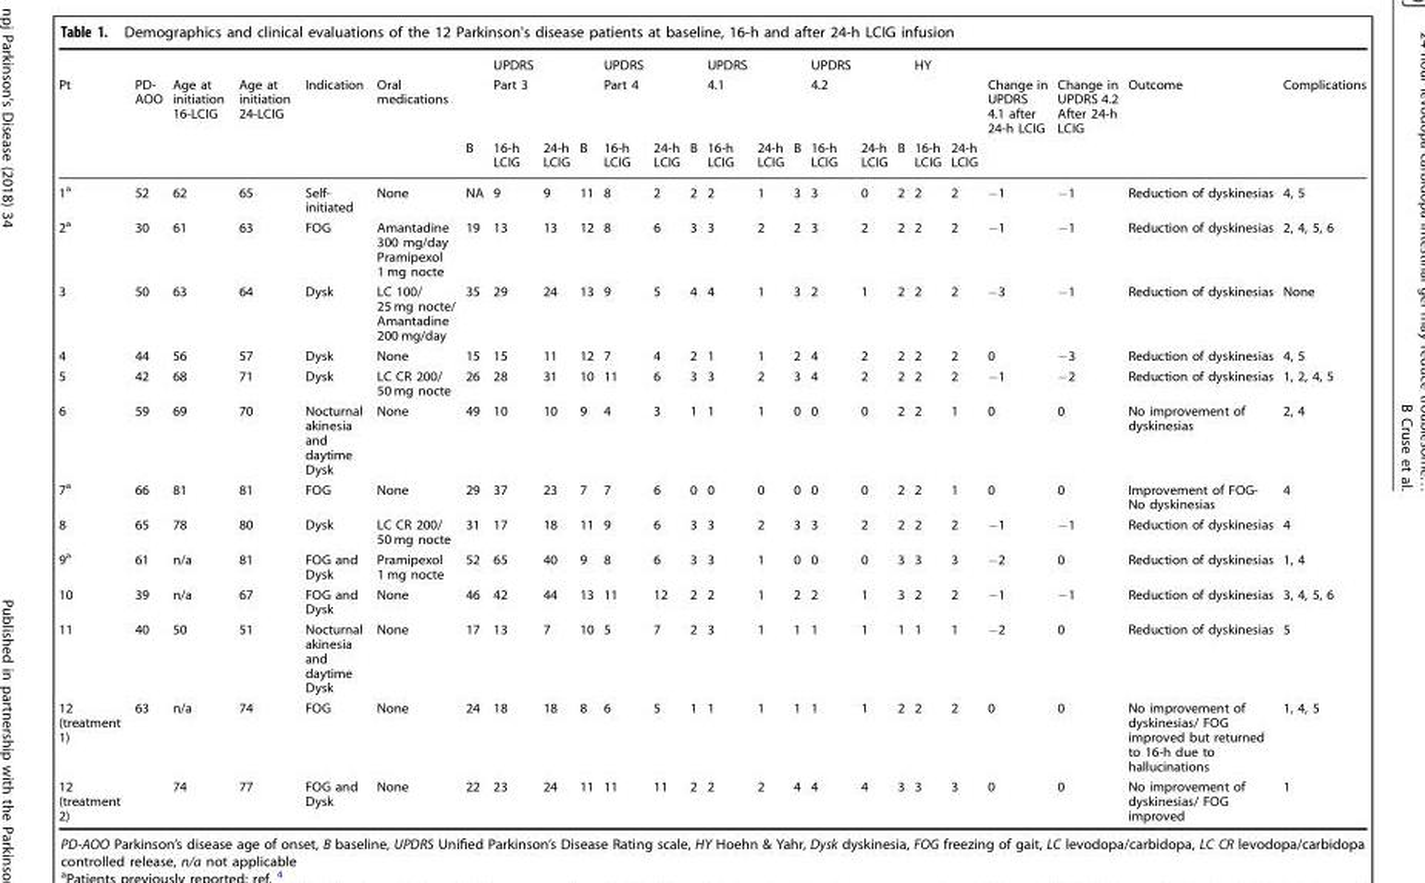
<table><thead><tr><td rowspan="3">Pt</td><td rowspan="3">PD- AOO</td><td rowspan="3">Age at initiation 16-LCIG</td><td rowspan="3">Age at initiation 24-LCIG</td><td rowspan="3">Indication</td><td rowspan="3">Oral medications</td><td rowspan="3">B</td><td rowspan="3">UPDRS Part 3 16-h LCIG</td><td rowspan="3">24-h LCIG</td><td rowspan="3">B</td><td rowspan="3">UPDRS Part 4 16-h LCIG</td><td rowspan="3">24-h LCIG</td><td rowspan="3">B</td><td rowspan="3">UPDRS 4.1 16-h LCIG</td><td rowspan="3">24-h LCIG</td><td rowspan="3">B</td><td rowspan="3">UPDRS 4.2 16-h LCIG</td><td rowspan="3">24-h LCIG</td><td rowspan="3">B</td><td rowspan="3">HY 16-h LCIG</td><td rowspan="3">24-h LCIG</td><td rowspan="3">Change in UPDRS 4.1 after 24-h LCIG</td><td rowspan="3">Change in UPDRS 4.2 After 24-h LCIG</td><td rowspan="3">Outcome</td><td rowspan="3">Complications</td></tr><tr></tr><tr></tr></thead><tbody><tr><td>1<sup>a</sup></td><td>52</td><td>62</td><td>65</td><td>Self- initiated</td><td>None</td><td>NA</td><td>9</td><td>9</td><td>11</td><td>8</td><td>2</td><td>2</td><td>2</td><td>1</td><td>3</td><td>3</td><td>0</td><td>2</td><td>2</td><td>2</td><td>−1</td><td>−1</td><td>Reduction of dyskinesias</td><td>4, 5</td></tr><tr><td>2<sup>a</sup></td><td>30</td><td>61</td><td>63</td><td>FOG</td><td>Amantadine 300 mg/day Pramipexol 1 mg nocte</td><td>19</td><td>13</td><td>13</td><td>12</td><td>8</td><td>6</td><td>3</td><td>3</td><td>2</td><td>2</td><td>3</td><td>2</td><td>2</td><td>2</td><td>2</td><td>−1</td><td>−1</td><td>Reduction of dyskinesias</td><td>2, 4, 5, 6</td></tr><tr><td>3</td><td>50</td><td>63</td><td>64</td><td>Dysk</td><td>LC 100/ 25 mg nocte/ Amantadine 200 mg/day</td><td>35</td><td>29</td><td>24</td><td>13</td><td>9</td><td>5</td><td>4</td><td>4</td><td>1</td><td>3</td><td>2</td><td>1</td><td>2</td><td>2</td><td>2</td><td>−3</td><td>−1</td><td>Reduction of dyskinesias</td><td>None</td></tr><tr><td>4</td><td>44</td><td>56</td><td>57</td><td>Dysk</td><td>None</td><td>15</td><td>15</td><td>11</td><td>12</td><td>7</td><td>4</td><td>2</td><td>1</td><td>1</td><td>2</td><td>4</td><td>2</td><td>2</td><td>2</td><td>2</td><td>0</td><td>−3</td><td>Reduction of dyskinesias</td><td>4, 5</td></tr><tr><td>5</td><td>42</td><td>68</td><td>71</td><td>Dysk</td><td>LC CR 200/ 50 mg nocte</td><td>26</td><td>28</td><td>31</td><td>10</td><td>11</td><td>6</td><td>3</td><td>3</td><td>2</td><td>3</td><td>4</td><td>2</td><td>2</td><td>2</td><td>2</td><td>−1</td><td>−2</td><td>Reduction of dyskinesias</td><td>1, 2, 4, 5</td></tr><tr><td>6</td><td>59</td><td>69</td><td>70</td><td>Nocturnal akinesia and daytime Dysk</td><td>None</td><td>49</td><td>10</td><td>10</td><td>9</td><td>4</td><td>3</td><td>1</td><td>1</td><td>1</td><td>0</td><td>0</td><td>0</td><td>2</td><td>2</td><td>1</td><td>0</td><td>0</td><td>No improvement of dyskinesias</td><td>2, 4</td></tr><tr><td>7<sup>a</sup></td><td>66</td><td>81</td><td>81</td><td>FOG</td><td>None</td><td>29</td><td>37</td><td>23</td><td>7</td><td>7</td><td>6</td><td>0</td><td>0</td><td>0</td><td>0</td><td>0</td><td>0</td><td>2</td><td>2</td><td>1</td><td>0</td><td>0</td><td>Improvement of FOG- No dyskinesias</td><td>4</td></tr><tr><td>8</td><td>65</td><td>78</td><td>80</td><td>Dysk</td><td>LC CR 200/ 50 mg nocte</td><td>31</td><td>17</td><td>18</td><td>11</td><td>9</td><td>6</td><td>3</td><td>3</td><td>2</td><td>3</td><td>3</td><td>2</td><td>2</td><td>2</td><td>2</td><td>−1</td><td>−1</td><td>Reduction of dyskinesias</td><td>4</td></tr><tr><td>9<sup>a</sup></td><td>61</td><td>n/a</td><td>81</td><td>FOG and Dysk</td><td>Pramipexol 1 mg nocte</td><td>52</td><td>65</td><td>40</td><td>9</td><td>8</td><td>6</td><td>3</td><td>3</td><td>1</td><td>0</td><td>0</td><td>0</td><td>3</td><td>3</td><td>3</td><td>−2</td><td>0</td><td>Reduction of dyskinesias</td><td>1, 4</td></tr><tr><td>10</td><td>39</td><td>n/a</td><td>67</td><td>FOG and Dysk</td><td>None</td><td>46</td><td>42</td><td>44</td><td>13</td><td>11</td><td>12</td><td>2</td><td>2</td><td>1</td><td>2</td><td>2</td><td>1</td><td>3</td><td>2</td><td>2</td><td>−1</td><td>−1</td><td>Reduction of dyskinesias</td><td>3, 4, 5, 6</td></tr><tr><td>11</td><td>40</td><td>50</td><td>51</td><td>Nocturnal akinesia and daytime Dysk</td><td>None</td><td>17</td><td>13</td><td>7</td><td>10</td><td>5</td><td>7</td><td>2</td><td>3</td><td>1</td><td>1</td><td>1</td><td>1</td><td>1</td><td>1</td><td>1</td><td>−2</td><td>0</td><td>Reduction of dyskinesias</td><td>5</td></tr><tr><td>12 (treatment 1)</td><td>63</td><td>n/a</td><td>74</td><td>FOG</td><td>None</td><td>24</td><td>18</td><td>18</td><td>8</td><td>6</td><td>5</td><td>1</td><td>1</td><td>1</td><td>1</td><td>1</td><td>1</td><td>2</td><td>2</td><td>2</td><td>0</td><td>0</td><td>No improvement of dyskinesias/ FOG improved but returned to 16-h due to hallucinations</td><td>1, 4, 5</td></tr><tr><td>12 (treatment 2)</td><td></td><td>74</td><td>77</td><td>FOG and Dysk</td><td>None</td><td>22</td><td>23</td><td>24</td><td>11</td><td>11</td><td>11</td><td>2</td><td>2</td><td>2</td><td>4</td><td>4</td><td>4</td><td>3</td><td>3</td><td>3</td><td>0</td><td>0</td><td>No improvement of dyskinesias/ FOG improved</td><td>1</td></tr></tbody></table>